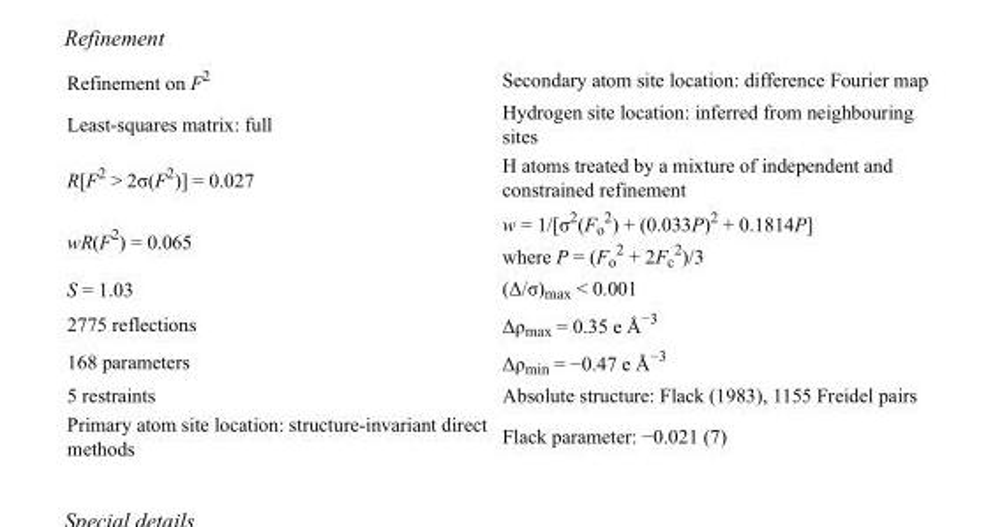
<table><tbody><tr><td>Refinement on F<sup>2</sup></td><td>Secondary atom site location: difference Fourier map</td></tr><tr><td>Least-squares matrix: full</td><td>Hydrogen site location: inferred from neighbouring sites</td></tr><tr><td>R[F<sup>2</sup> &gt; 2σ(F<sup>2</sup>)] = 0.027</td><td>H atoms treated by a mixture of independent and constrained refinement</td></tr><tr><td>wR(F<sup>2</sup>) = 0.065</td><td>w = 1/[σ<sup>2</sup>(F<sub>o</sub> <sup>2</sup>) + (0.033P)<sup>2</sup> + 0.1814P] where P = (F<sub>o</sub> <sup>2</sup> + 2F<sub>c</sub> <sup>2</sup>)/3</td></tr><tr><td>S = 1.03</td><td>(Δ/σ)<sub>max</sub> &lt; 0.001</td></tr><tr><td>2775 reflections</td><td>Δρ<sub>max</sub> = 0.35 e Å<sup>−3</sup></td></tr><tr><td>168 parameters</td><td>Δρ<sub>min</sub> = −0.47 e Å<sup>−3</sup></td></tr><tr><td>5 restraints</td><td>Absolute structure: Flack (1983), 1155 Freidel pairs</td></tr><tr><td>Primary atom site location: structure-invariant direct methods</td><td>Flack parameter: −0.021 (7)</td></tr></tbody></table>